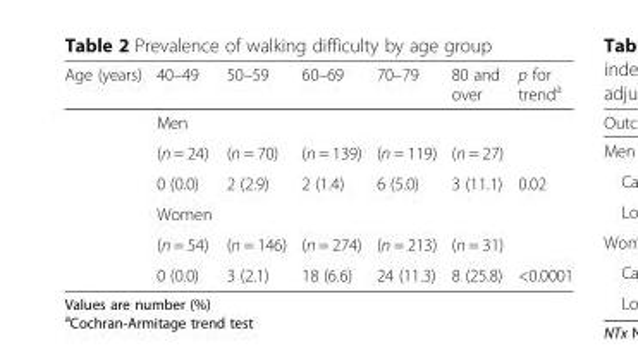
<table><thead><tr><td>Age (years)</td><td>40–49</td><td>50–59</td><td>60–69</td><td>70–79</td><td>80 and over</td><td>p for trend<sup>a</sup></td></tr></thead><tbody><tr><td></td><td>Men</td><td></td><td></td><td></td><td></td><td></td></tr><tr><td></td><td>(n = 24)</td><td>(n = 70)</td><td>(n = 139)</td><td>(n = 119)</td><td>(n = 27)</td><td></td></tr><tr><td></td><td>0 (0.0)</td><td>2 (2.9)</td><td>2 (1.4)</td><td>6 (5.0)</td><td>3 (11.1)</td><td>0.02</td></tr><tr><td></td><td>Women</td><td></td><td></td><td></td><td></td><td></td></tr><tr><td></td><td>(n = 54)</td><td>(n = 146)</td><td>(n = 274)</td><td>(n = 213)</td><td>(n = 31)</td><td></td></tr><tr><td></td><td>0 (0.0)</td><td>3 (2.1)</td><td>18 (6.6)</td><td>24 (11.3)</td><td>8 (25.8)</td><td>&lt;0.0001</td></tr></tbody></table>